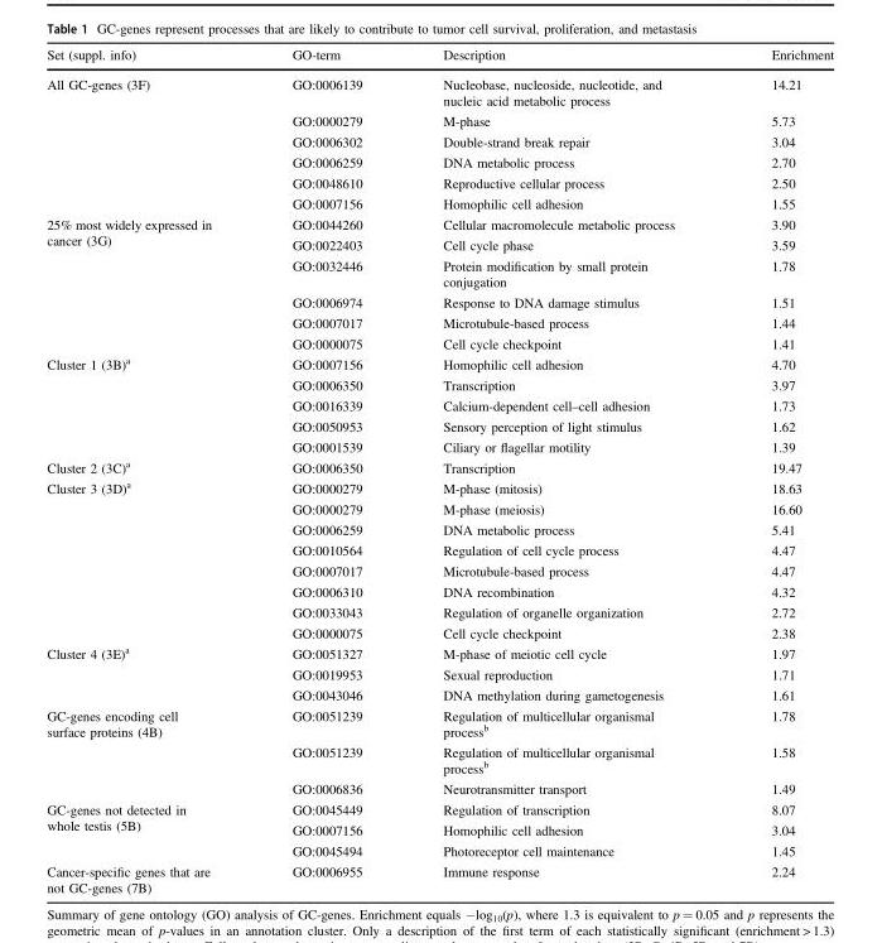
<table><thead><tr><td>Set (suppl. info)</td><td>GO-term</td><td>Description</td><td>Enrichment</td></tr></thead><tbody><tr><td rowspan="6">All GC-genes (3F)</td><td>GO:0006139</td><td>Nucleobase, nucleoside, nucleotide, and nucleic acid metabolic process</td><td>14.21</td></tr><tr><td>GO:0000279</td><td>M-phase</td><td>5.73</td></tr><tr><td>GO:0006302</td><td>Double-strand break repair</td><td>3.04</td></tr><tr><td>GO:0006259</td><td>DNA metabolic process</td><td>2.70</td></tr><tr><td>GO:0048610</td><td>Reproductive cellular process</td><td>2.50</td></tr><tr><td>GO:0007156</td><td>Homophilic cell adhesion</td><td>1.55</td></tr><tr><td rowspan="6">25% most widely expressed in cancer (3G)</td><td>GO:0044260</td><td>Cellular macromolecule metabolic process</td><td>3.90</td></tr><tr><td>GO:0022403</td><td>Cell cycle phase</td><td>3.59</td></tr><tr><td>GO:0032446</td><td>Protein modification by small protein conjugation</td><td>1.78</td></tr><tr><td>GO:0006974</td><td>Response to DNA damage stimulus</td><td>1.51</td></tr><tr><td>GO:0007017</td><td>Microtubule-based process</td><td>1.44</td></tr><tr><td>GO:0000075</td><td>Cell cycle checkpoint</td><td>1.41</td></tr><tr><td rowspan="5">Cluster 1 (3B)<sup>a</sup></td><td>GO:0007156</td><td>Homophilic cell adhesion</td><td>4.70</td></tr><tr><td>GO:0006350</td><td>Transcription</td><td>3.97</td></tr><tr><td>GO:0016339</td><td>Calcium-dependent cell–cell adhesion</td><td>1.73</td></tr><tr><td>GO:0050953</td><td>Sensory perception of light stimulus</td><td>1.62</td></tr><tr><td>GO:0001539</td><td>Ciliary or flagellar motility</td><td>1.39</td></tr><tr><td>Cluster 2 (3C)<sup>a</sup></td><td>GO:0006350</td><td>Transcription</td><td>19.47</td></tr><tr><td rowspan="8">Cluster 3 (3D)<sup>a</sup></td><td>GO:0000279</td><td>M-phase (mitosis)</td><td>18.63</td></tr><tr><td>GO:0000279</td><td>M-phase (meiosis)</td><td>16.60</td></tr><tr><td>GO:0006259</td><td>DNA metabolic process</td><td>5.41</td></tr><tr><td>GO:0010564</td><td>Regulation of cell cycle process</td><td>4.47</td></tr><tr><td>GO:0007017</td><td>Microtubule-based process</td><td>4.47</td></tr><tr><td>GO:0006310</td><td>DNA recombination</td><td>4.32</td></tr><tr><td>GO:0033043</td><td>Regulation of organelle organization</td><td>2.72</td></tr><tr><td>GO:0000075</td><td>Cell cycle checkpoint</td><td>2.38</td></tr><tr><td rowspan="3">Cluster 4 (3E)<sup>a</sup></td><td>GO:0051327</td><td>M-phase of meiotic cell cycle</td><td>1.97</td></tr><tr><td>GO:0019953</td><td>Sexual reproduction</td><td>1.71</td></tr><tr><td>GO:0043046</td><td>DNA methylation during gametogenesis</td><td>1.61</td></tr><tr><td rowspan="3">GC-genes encoding cell surface proteins (4B)</td><td>GO:0051239</td><td>Regulation of multicellular organismal process<sup>b</sup></td><td>1.78</td></tr><tr><td>GO:0051239</td><td>Regulation of multicellular organismal process<sup>b</sup></td><td>1.58</td></tr><tr><td>GO:0006836</td><td>Neurotransmitter transport</td><td>1.49</td></tr><tr><td rowspan="3">GC-genes not detected in whole testis (5B)</td><td>GO:0045449</td><td>Regulation of transcription</td><td>8.07</td></tr><tr><td>GO:0007156</td><td>Homophilic cell adhesion</td><td>3.04</td></tr><tr><td>GO:0045494</td><td>Photoreceptor cell maintenance</td><td>1.45</td></tr><tr><td>Cancer-specific genes that are not GC-genes (7B)</td><td>GO:0006955</td><td>Immune response</td><td>2.24</td></tr></tbody></table>